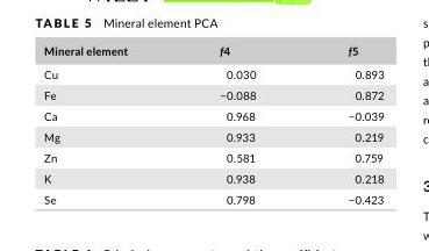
<table><thead><tr><td>Mineral element</td><td>f4</td><td>f5</td></tr></thead><tbody><tr><td>Cu</td><td>0.030</td><td>0.893</td></tr><tr><td>Fe</td><td>−0.088</td><td>0.872</td></tr><tr><td>Ca</td><td>0.968</td><td>−0.039</td></tr><tr><td>Mg</td><td>0.933</td><td>0.219</td></tr><tr><td>Zn</td><td>0.581</td><td>0.759</td></tr><tr><td>K</td><td>0.938</td><td>0.218</td></tr><tr><td>Se</td><td>0.798</td><td>−0.423</td></tr></tbody></table>